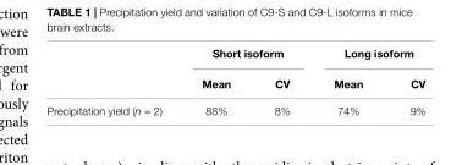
<table><thead><tr><td rowspan="2"></td><td colspan="2">Short isoform</td><td colspan="2">Long isoform</td></tr><tr><td>Mean</td><td>CV</td><td>Mean</td><td>CV</td></tr></thead><tbody><tr><td>Precipitation yield (n = 2)</td><td>88%</td><td>8%</td><td>74%</td><td>9%</td></tr></tbody></table>